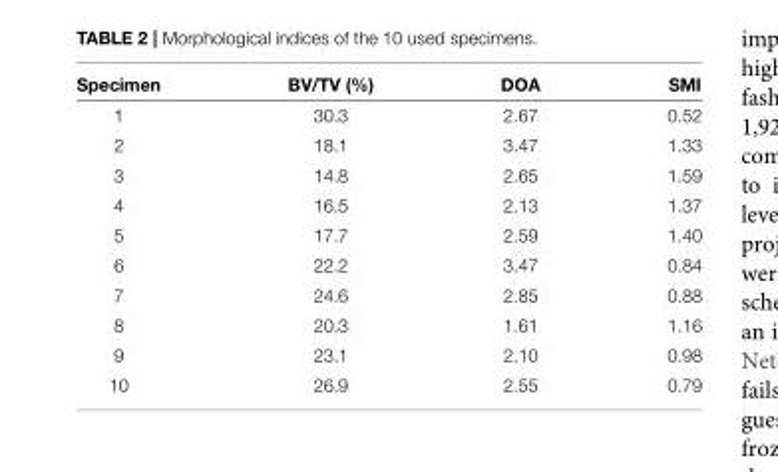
<table><thead><tr><td>Specimen</td><td>BV/TV (%)</td><td>DOA</td><td>SMI</td></tr></thead><tbody><tr><td>1</td><td>30.3</td><td>2.67</td><td>0.52</td></tr><tr><td>2</td><td>18.1</td><td>3.47</td><td>1.33</td></tr><tr><td>3</td><td>14.8</td><td>2.65</td><td>1.59</td></tr><tr><td>4</td><td>16.5</td><td>2.13</td><td>1.37</td></tr><tr><td>5</td><td>17.7</td><td>2.59</td><td>1.40</td></tr><tr><td>6</td><td>22.2</td><td>3.47</td><td>0.84</td></tr><tr><td>7</td><td>24.6</td><td>2.85</td><td>0.88</td></tr><tr><td>8</td><td>20.3</td><td>1.61</td><td>1.16</td></tr><tr><td>9</td><td>23.1</td><td>2.10</td><td>0.98</td></tr><tr><td>10</td><td>26.9</td><td>2.55</td><td>0.79</td></tr></tbody></table>